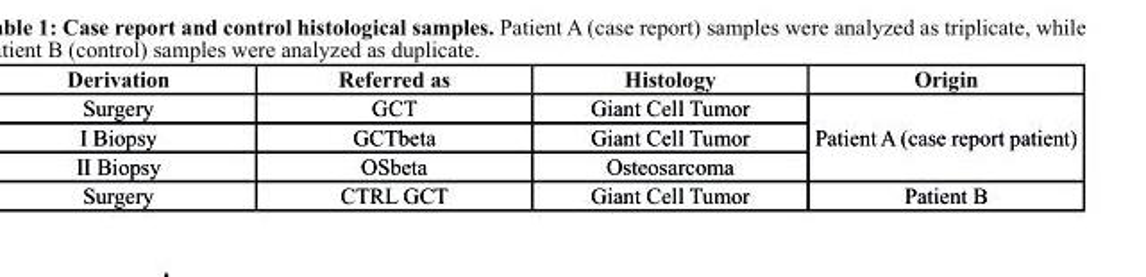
<table><thead><tr><td>Derivation</td><td>Referred as</td><td>Histology</td><td>Origin</td></tr></thead><tbody><tr><td>Surgery</td><td>GCT</td><td>Giant Cell Tumor</td><td rowspan="3">Patient A (case report patient)</td></tr><tr><td>I Biopsy</td><td>GCTbeta</td><td>Giant Cell Tumor</td></tr><tr><td>II Biopsy</td><td>OSbeta</td><td>Osteosarcoma</td></tr><tr><td>Surgery</td><td>CTRL GCT</td><td>Giant Cell Tumor</td><td>Patient B</td></tr></tbody></table>